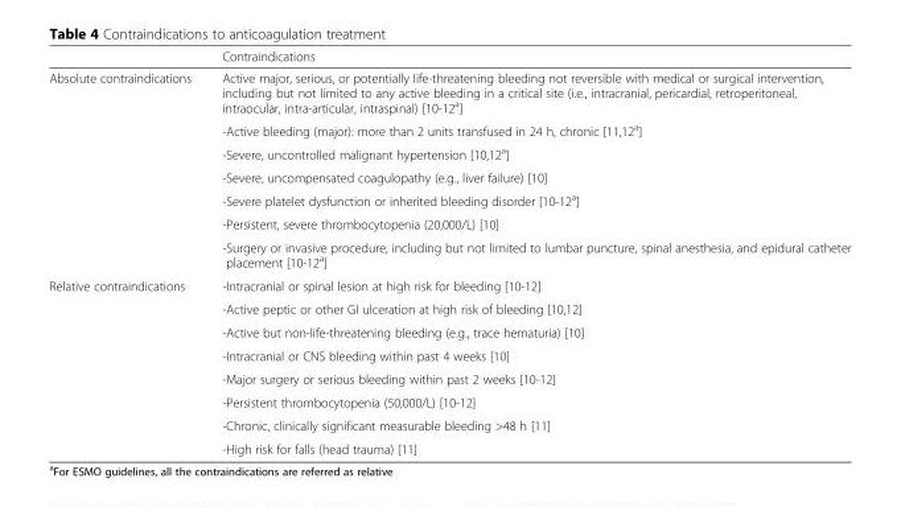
<table><thead><tr><td></td><td>Contraindications</td></tr></thead><tbody><tr><td rowspan="7">Absolute contraindications</td><td>Active major, serious, or potentially life-threatening bleeding not reversible with medical or surgical intervention, including but not limited to any active bleeding in a critical site (i.e., intracranial, pericardial, retroperitoneal, intraocular, intra-articular, intraspinal) [10-12<sup>a</sup>]</td></tr><tr><td>-Active bleeding (major): more than 2 units transfused in 24 h, chronic [11,12<sup>a</sup>]</td></tr><tr><td>-Severe, uncontrolled malignant hypertension [10,12<sup>a</sup>]</td></tr><tr><td>-Severe, uncompensated coagulopathy (e.g., liver failure) [10]</td></tr><tr><td>-Severe platelet dysfunction or inherited bleeding disorder [10-12<sup>a</sup>]</td></tr><tr><td>-Persistent, severe thrombocytopenia (20,000/L) [10]</td></tr><tr><td>-Surgery or invasive procedure, including but not limited to lumbar puncture, spinal anesthesia, and epidural catheter placement [10-12<sup>a</sup>]</td></tr><tr><td rowspan="8">Relative contraindications</td><td>-Intracranial or spinal lesion at high risk for bleeding [10-12]</td></tr><tr><td>-Active peptic or other GI ulceration at high risk of bleeding [10,12]</td></tr><tr><td>-Active but non-life-threatening bleeding (e.g., trace hematuria) [10]</td></tr><tr><td>-Intracranial or CNS bleeding within past 4 weeks [10]</td></tr><tr><td>-Major surgery or serious bleeding within past 2 weeks [10-12]</td></tr><tr><td>-Persistent thrombocytopenia (50,000/L) [10-12]</td></tr><tr><td>-Chronic, clinically significant measurable bleeding &gt;48 h [11]</td></tr><tr><td>-High risk for falls (head trauma) [11]</td></tr></tbody></table>